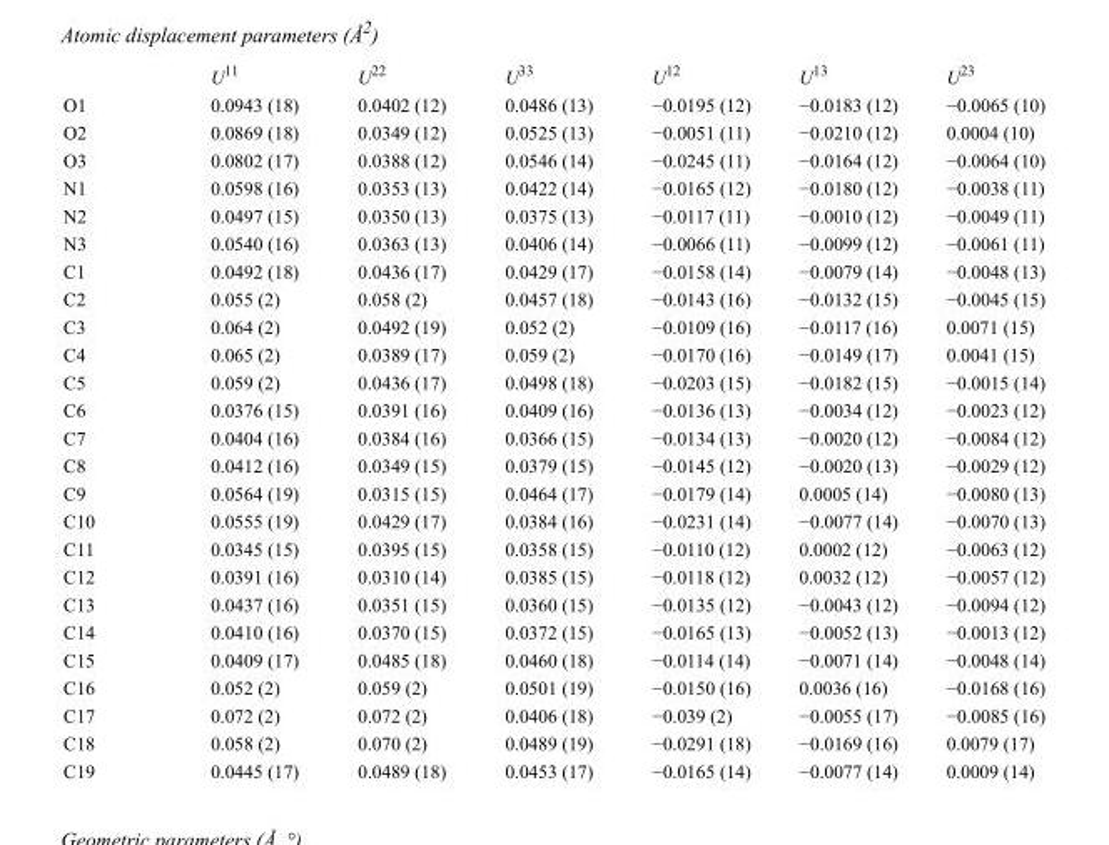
<table><thead><tr><td></td><td>U<sup>11</sup></td><td>U<sup>22</sup></td><td>U<sup>33</sup></td><td>U<sup>12</sup></td><td>U<sup>13</sup></td><td>U<sup>23</sup></td></tr></thead><tbody><tr><td>O1</td><td>0.0943 (18)</td><td>0.0402 (12)</td><td>0.0486 (13)</td><td>−0.0195 (12)</td><td>−0.0183 (12)</td><td>−0.0065 (10)</td></tr><tr><td>O2</td><td>0.0869 (18)</td><td>0.0349 (12)</td><td>0.0525 (13)</td><td>−0.0051 (11)</td><td>−0.0210 (12)</td><td>0.0004 (10)</td></tr><tr><td>O3</td><td>0.0802 (17)</td><td>0.0388 (12)</td><td>0.0546 (14)</td><td>−0.0245 (11)</td><td>−0.0164 (12)</td><td>−0.0064 (10)</td></tr><tr><td>N1</td><td>0.0598 (16)</td><td>0.0353 (13)</td><td>0.0422 (14)</td><td>−0.0165 (12)</td><td>−0.0180 (12)</td><td>−0.0038 (11)</td></tr><tr><td>N2</td><td>0.0497 (15)</td><td>0.0350 (13)</td><td>0.0375 (13)</td><td>−0.0117 (11)</td><td>−0.0010 (12)</td><td>−0.0049 (11)</td></tr><tr><td>N3</td><td>0.0540 (16)</td><td>0.0363 (13)</td><td>0.0406 (14)</td><td>−0.0066 (11)</td><td>−0.0099 (12)</td><td>−0.0061 (11)</td></tr><tr><td>C1</td><td>0.0492 (18)</td><td>0.0436 (17)</td><td>0.0429 (17)</td><td>−0.0158 (14)</td><td>−0.0079 (14)</td><td>−0.0048 (13)</td></tr><tr><td>C2</td><td>0.055 (2)</td><td>0.058 (2)</td><td>0.0457 (18)</td><td>−0.0143 (16)</td><td>−0.0132 (15)</td><td>−0.0045 (15)</td></tr><tr><td>C3</td><td>0.064 (2)</td><td>0.0492 (19)</td><td>0.052 (2)</td><td>−0.0109 (16)</td><td>−0.0117 (16)</td><td>0.0071 (15)</td></tr><tr><td>C4</td><td>0.065 (2)</td><td>0.0389 (17)</td><td>0.059 (2)</td><td>−0.0170 (16)</td><td>−0.0149 (17)</td><td>0.0041 (15)</td></tr><tr><td>C5</td><td>0.059 (2)</td><td>0.0436 (17)</td><td>0.0498 (18)</td><td>−0.0203 (15)</td><td>−0.0182 (15)</td><td>−0.0015 (14)</td></tr><tr><td>C6</td><td>0.0376 (15)</td><td>0.0391 (16)</td><td>0.0409 (16)</td><td>−0.0136 (13)</td><td>−0.0034 (12)</td><td>−0.0023 (12)</td></tr><tr><td>C7</td><td>0.0404 (16)</td><td>0.0384 (16)</td><td>0.0366 (15)</td><td>−0.0134 (13)</td><td>−0.0020 (12)</td><td>−0.0084 (12)</td></tr><tr><td>C8</td><td>0.0412 (16)</td><td>0.0349 (15)</td><td>0.0379 (15)</td><td>−0.0145 (12)</td><td>−0.0020 (13)</td><td>−0.0029 (12)</td></tr><tr><td>C9</td><td>0.0564 (19)</td><td>0.0315 (15)</td><td>0.0464 (17)</td><td>−0.0179 (14)</td><td>0.0005 (14)</td><td>−0.0080 (13)</td></tr><tr><td>C10</td><td>0.0555 (19)</td><td>0.0429 (17)</td><td>0.0384 (16)</td><td>−0.0231 (14)</td><td>−0.0077 (14)</td><td>−0.0070 (13)</td></tr><tr><td>C11</td><td>0.0345 (15)</td><td>0.0395 (15)</td><td>0.0358 (15)</td><td>−0.0110 (12)</td><td>0.0002 (12)</td><td>−0.0063 (12)</td></tr><tr><td>C12</td><td>0.0391 (16)</td><td>0.0310 (14)</td><td>0.0385 (15)</td><td>−0.0118 (12)</td><td>0.0032 (12)</td><td>−0.0057 (12)</td></tr><tr><td>C13</td><td>0.0437 (16)</td><td>0.0351 (15)</td><td>0.0360 (15)</td><td>−0.0135 (12)</td><td>−0.0043 (12)</td><td>−0.0094 (12)</td></tr><tr><td>C14</td><td>0.0410 (16)</td><td>0.0370 (15)</td><td>0.0372 (15)</td><td>−0.0165 (13)</td><td>−0.0052 (13)</td><td>−0.0013 (12)</td></tr><tr><td>C15</td><td>0.0409 (17)</td><td>0.0485 (18)</td><td>0.0460 (18)</td><td>−0.0114 (14)</td><td>−0.0071 (14)</td><td>−0.0048 (14)</td></tr><tr><td>C16</td><td>0.052 (2)</td><td>0.059 (2)</td><td>0.0501 (19)</td><td>−0.0150 (16)</td><td>0.0036 (16)</td><td>−0.0168 (16)</td></tr><tr><td>C17</td><td>0.072 (2)</td><td>0.072 (2)</td><td>0.0406 (18)</td><td>−0.039 (2)</td><td>−0.0055 (17)</td><td>−0.0085 (16)</td></tr><tr><td>C18</td><td>0.058 (2)</td><td>0.070 (2)</td><td>0.0489 (19)</td><td>−0.0291 (18)</td><td>−0.0169 (16)</td><td>0.0079 (17)</td></tr><tr><td>C19</td><td>0.0445 (17)</td><td>0.0489 (18)</td><td>0.0453 (17)</td><td>−0.0165 (14)</td><td>−0.0077 (14)</td><td>0.0009 (14)</td></tr></tbody></table>